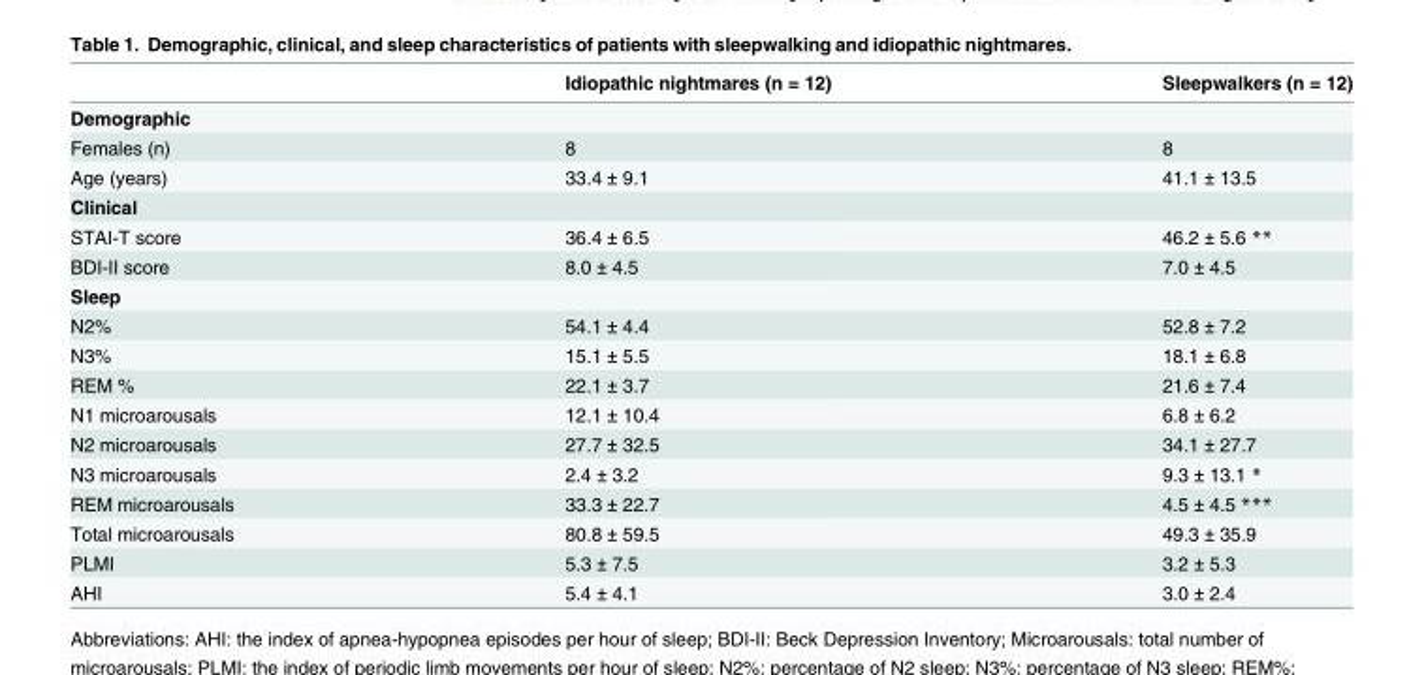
<table><thead><tr><td></td><td>Idiopathic nightmares (n = 12)</td><td>Sleepwalkers (n = 12)</td></tr></thead><tbody><tr><td colspan="3">Demographic</td></tr><tr><td>Females (n)</td><td>8</td><td>8</td></tr><tr><td>Age (years)</td><td>33.4 ± 9.1</td><td>41.1 ± 13.5</td></tr><tr><td colspan="3">Clinical</td></tr><tr><td>STAI-T score</td><td>36.4 ± 6.5</td><td>46.2 ± 5.6 **</td></tr><tr><td>BDI-II score</td><td>8.0 ± 4.5</td><td>7.0 ± 4.5</td></tr><tr><td colspan="3">Sleep</td></tr><tr><td>N2%</td><td>54.1 ± 4.4</td><td>52.8 ± 7.2</td></tr><tr><td>N3%</td><td>15.1 ± 5.5</td><td>18.1 ± 6.8</td></tr><tr><td>REM %</td><td>22.1 ± 3.7</td><td>21.6 ± 7.4</td></tr><tr><td>N1 microarousals</td><td>12.1 ± 10.4</td><td>6.8 ± 6.2</td></tr><tr><td>N2 microarousals</td><td>27.7 ± 32.5</td><td>34.1 ± 27.7</td></tr><tr><td>N3 microarousals</td><td>2.4 ± 3.2</td><td>9.3 ± 13.1 *</td></tr><tr><td>REM microarousals</td><td>33.3 ± 22.7</td><td>4.5 ± 4.5 ***</td></tr><tr><td>Total microarousals</td><td>80.8 ± 59.5</td><td>49.3 ± 35.9</td></tr><tr><td>PLMI</td><td>5.3 ± 7.5</td><td>3.2 ± 5.3</td></tr><tr><td>AHI</td><td>5.4 ± 4.1</td><td>3.0 ± 2.4</td></tr></tbody></table>